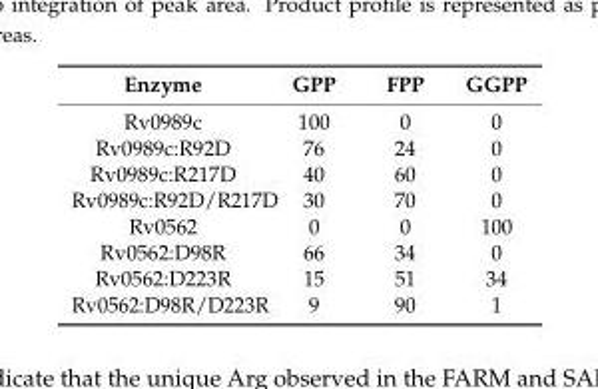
<table><thead><tr><td>Enzyme</td><td>GPP</td><td>FPP</td><td>GGPP</td></tr></thead><tbody><tr><td>Rv0989c</td><td>100</td><td>0</td><td>0</td></tr><tr><td>Rv0989c:R92D</td><td>76</td><td>24</td><td>0</td></tr><tr><td>Rv0989c:R217D</td><td>40</td><td>60</td><td>0</td></tr><tr><td>Rv0989c:R92D/R217D</td><td>30</td><td>70</td><td>0</td></tr><tr><td>Rv0562</td><td>0</td><td>0</td><td>100</td></tr><tr><td>Rv0562:D98R</td><td>66</td><td>34</td><td>0</td></tr><tr><td>Rv0562:D223R</td><td>15</td><td>51</td><td>34</td></tr><tr><td>Rv0562:D98R/D223R</td><td>9</td><td>90</td><td>1</td></tr></tbody></table>